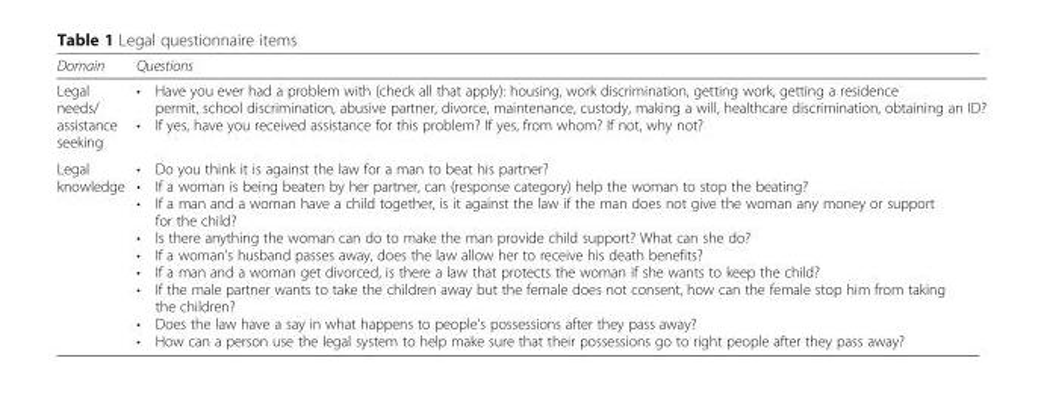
<table><thead><tr><td>Domain</td><td>Questions</td></tr></thead><tbody><tr><td>Legal needs/ assistance seeking</td><td>• Have you ever had a problem with (check all that apply): housing, work discrimination, getting work, getting a residence permit, school discrimination, abusive partner, divorce, maintenance, custody, making a will, healthcare discrimination, obtaining an ID? • If yes, have you received assistance for this problem? If yes, from whom? If not, why not?</td></tr><tr><td>Legal knowledge</td><td>• Do you think it is against the law for a man to beat his partner? • If a woman is being beaten by her partner, can (response category) help the woman to stop the beating? • If a man and a woman have a child together, is it against the law if the man does not give the woman any money or support for the child? • Is there anything the woman can do to make the man provide child support? What can she do? • If a woman’s husband passes away, does the law allow her to receive his death benefits? • If a man and a woman get divorced, is there a law that protects the woman if she wants to keep the child? • If the male partner wants to take the children away but the female does not consent, how can the female stop him from taking the children? • Does the law have a say in what happens to people’s possessions after they pass away? • How can a person use the legal system to help make sure that their possessions go to right people after they pass away?</td></tr></tbody></table>